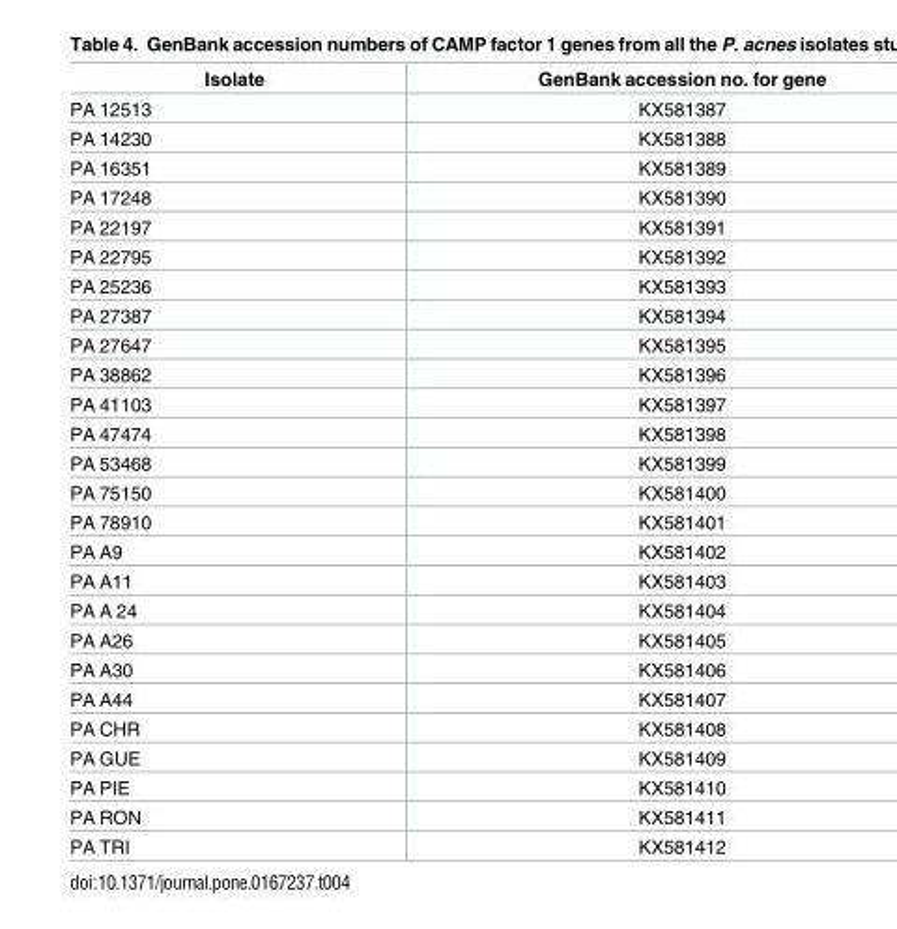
<table><thead><tr><td>Isolate</td><td>GenBank accession no. for gene</td></tr></thead><tbody><tr><td>PA 12513</td><td>KX581387</td></tr><tr><td>PA 14230</td><td>KX581388</td></tr><tr><td>PA 16351</td><td>KX581389</td></tr><tr><td>PA 17248</td><td>KX581390</td></tr><tr><td>PA 22197</td><td>KX581391</td></tr><tr><td>PA 22795</td><td>KX581392</td></tr><tr><td>PA 25236</td><td>KX581393</td></tr><tr><td>PA 27387</td><td>KX581394</td></tr><tr><td>PA 27647</td><td>KX581395</td></tr><tr><td>PA 38862</td><td>KX581396</td></tr><tr><td>PA 41103</td><td>KX581397</td></tr><tr><td>PA 47474</td><td>KX581398</td></tr><tr><td>PA 53468</td><td>KX581399</td></tr><tr><td>PA 75150</td><td>KX581400</td></tr><tr><td>PA 78910</td><td>KX581401</td></tr><tr><td>PA A9</td><td>KX581402</td></tr><tr><td>PA A11</td><td>KX581403</td></tr><tr><td>PA A 24</td><td>KX581404</td></tr><tr><td>PA A26</td><td>KX581405</td></tr><tr><td>PA A30</td><td>KX581406</td></tr><tr><td>PA A44</td><td>KX581407</td></tr><tr><td>PA CHR</td><td>KX581408</td></tr><tr><td>PA GUE</td><td>KX581409</td></tr><tr><td>PA PIE</td><td>KX581410</td></tr><tr><td>PA RON</td><td>KX581411</td></tr><tr><td>PA TRI</td><td>KX581412</td></tr></tbody></table>